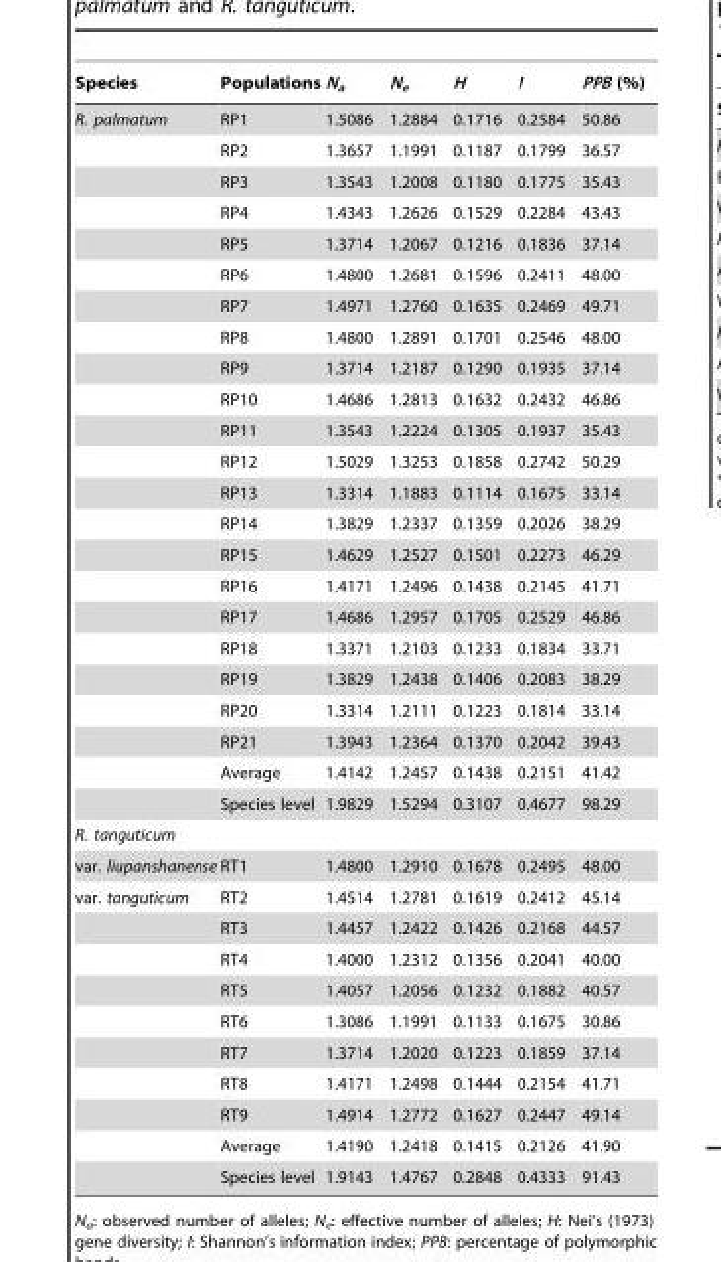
<table><thead><tr><td>Species</td><td>Populations</td><td>N<sub>a</sub></td><td>N<sub>e</sub></td><td>H</td><td>I</td><td>PPB (%)</td></tr></thead><tbody><tr><td rowspan="23">R. palmatum</td><td>RP1</td><td>1.5086</td><td>1.2884</td><td>0.1716</td><td>0.2584</td><td>50.86</td></tr><tr><td>RP2</td><td>1.3657</td><td>1.1991</td><td>0.1187</td><td>0.1799</td><td>36.57</td></tr><tr><td>RP3</td><td>1.3543</td><td>1.2008</td><td>0.1180</td><td>0.1775</td><td>35.43</td></tr><tr><td>RP4</td><td>1.4343</td><td>1.2626</td><td>0.1529</td><td>0.2284</td><td>43.43</td></tr><tr><td>RP5</td><td>1.3714</td><td>1.2067</td><td>0.1216</td><td>0.1836</td><td>37.14</td></tr><tr><td>RP6</td><td>1.4800</td><td>1.2681</td><td>0.1596</td><td>0.2411</td><td>48.00</td></tr><tr><td>RP7</td><td>1.4971</td><td>1.2760</td><td>0.1635</td><td>0.2469</td><td>49.71</td></tr><tr><td>RP8</td><td>1.4800</td><td>1.2891</td><td>0.1701</td><td>0.2546</td><td>48.00</td></tr><tr><td>RP9</td><td>1.3714</td><td>1.2187</td><td>0.1290</td><td>0.1935</td><td>37.14</td></tr><tr><td>RP10</td><td>1.4686</td><td>1.2813</td><td>0.1632</td><td>0.2432</td><td>46.86</td></tr><tr><td>RP11</td><td>1.3543</td><td>1.2224</td><td>0.1305</td><td>0.1937</td><td>35.43</td></tr><tr><td>RP12</td><td>1.5029</td><td>1.3253</td><td>0.1858</td><td>0.2742</td><td>50.29</td></tr><tr><td>RP13</td><td>1.3314</td><td>1.1883</td><td>0.1114</td><td>0.1675</td><td>33.14</td></tr><tr><td>RP14</td><td>1.3829</td><td>1.2337</td><td>0.1359</td><td>0.2026</td><td>38.29</td></tr><tr><td>RP15</td><td>1.4629</td><td>1.2527</td><td>0.1501</td><td>0.2273</td><td>46.29</td></tr><tr><td>RP16</td><td>1.4171</td><td>1.2496</td><td>0.1438</td><td>0.2145</td><td>41.71</td></tr><tr><td>RP17</td><td>1.4686</td><td>1.2957</td><td>0.1705</td><td>0.2529</td><td>46.86</td></tr><tr><td>RP18</td><td>1.3371</td><td>1.2103</td><td>0.1233</td><td>0.1834</td><td>33.71</td></tr><tr><td>RP19</td><td>1.3829</td><td>1.2438</td><td>0.1406</td><td>0.2083</td><td>38.29</td></tr><tr><td>RP20</td><td>1.3314</td><td>1.2111</td><td>0.1223</td><td>0.1814</td><td>33.14</td></tr><tr><td>RP21</td><td>1.3943</td><td>1.2364</td><td>0.1370</td><td>0.2042</td><td>39.43</td></tr><tr><td>Average</td><td>1.4142</td><td>1.2457</td><td>0.1438</td><td>0.2151</td><td>41.42</td></tr><tr><td>Species level</td><td>1.9829</td><td>1.5294</td><td>0.3107</td><td>0.4677</td><td>98.29</td></tr><tr><td colspan="7">R. tanguticum</td></tr><tr><td>var. liupanshanense</td><td>RT1</td><td>1.4800</td><td>1.2910</td><td>0.1678</td><td>0.2495</td><td>48.00</td></tr><tr><td rowspan="10">var. tanguticum</td><td>RT2</td><td>1.4514</td><td>1.2781</td><td>0.1619</td><td>0.2412</td><td>45.14</td></tr><tr><td>RT3</td><td>1.4457</td><td>1.2422</td><td>0.1426</td><td>0.2168</td><td>44.57</td></tr><tr><td>RT4</td><td>1.4000</td><td>1.2312</td><td>0.1356</td><td>0.2041</td><td>40.00</td></tr><tr><td>RT5</td><td>1.4057</td><td>1.2056</td><td>0.1232</td><td>0.1882</td><td>40.57</td></tr><tr><td>RT6</td><td>1.3086</td><td>1.1991</td><td>0.1133</td><td>0.1675</td><td>30.86</td></tr><tr><td>RT7</td><td>1.3714</td><td>1.2020</td><td>0.1223</td><td>0.1859</td><td>37.14</td></tr><tr><td>RT8</td><td>1.4171</td><td>1.2498</td><td>0.1444</td><td>0.2154</td><td>41.71</td></tr><tr><td>RT9</td><td>1.4914</td><td>1.2772</td><td>0.1627</td><td>0.2447</td><td>49.14</td></tr><tr><td>Average</td><td>1.4190</td><td>1.2418</td><td>0.1415</td><td>0.2126</td><td>41.90</td></tr><tr><td>Species level</td><td>1.9143</td><td>1.4767</td><td>0.2848</td><td>0.4333</td><td>91.43</td></tr></tbody></table>